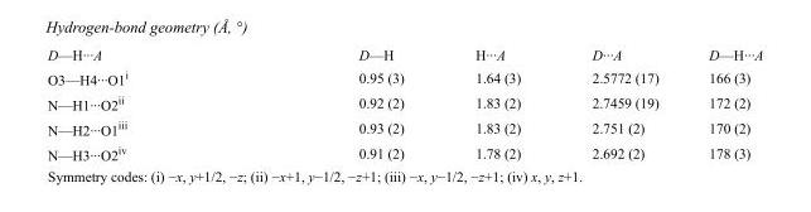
<table><tbody><tr><td>D—H···A</td><td>D—H</td><td>H···A</td><td>D···A</td><td>D—H···A</td></tr><tr><td>O3—H4···O1<sup>i</sup></td><td>0.95 (3)</td><td>1.64 (3)</td><td>2.5772 (17)</td><td>166 (3)</td></tr><tr><td>N—H1···O2<sup>ii</sup></td><td>0.92 (2)</td><td>1.83 (2)</td><td>2.7459 (19)</td><td>172 (2)</td></tr><tr><td>N—H2···O1<sup>iii</sup></td><td>0.93 (2)</td><td>1.83 (2)</td><td>2.751 (2)</td><td>170 (2)</td></tr><tr><td>N—H3···O2<sup>iv</sup></td><td>0.91 (2)</td><td>1.78 (2)</td><td>2.692 (2)</td><td>178 (3)</td></tr></tbody></table>